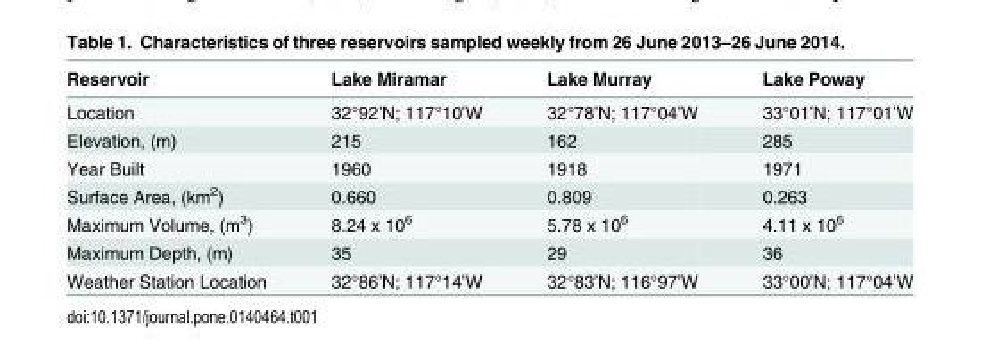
<table><thead><tr><td>Reservoir</td><td>Lake Miramar</td><td>Lake Murray</td><td>Lake Poway</td></tr></thead><tbody><tr><td>Location</td><td>32°92’N; 117°10’W</td><td>32°78’N; 117°04’W</td><td>33°01’N; 117°01’W</td></tr><tr><td>Elevation, (m)</td><td>215</td><td>162</td><td>285</td></tr><tr><td>Year Built</td><td>1960</td><td>1918</td><td>1971</td></tr><tr><td>Surface Area, (km<sup>2</sup>)</td><td>0.660</td><td>0.809</td><td>0.263</td></tr><tr><td>Maximum Volume, (m<sup>3</sup>)</td><td>8.24 x 10<sup>6</sup></td><td>5.78 x 10<sup>6</sup></td><td>4.11 x 10<sup>6</sup></td></tr><tr><td>Maximum Depth, (m)</td><td>35</td><td>29</td><td>36</td></tr><tr><td>Weather Station Location</td><td>32°86’N; 117°14’W</td><td>32°83’N; 116°97’W</td><td>33°00’N; 117°04’W</td></tr></tbody></table>